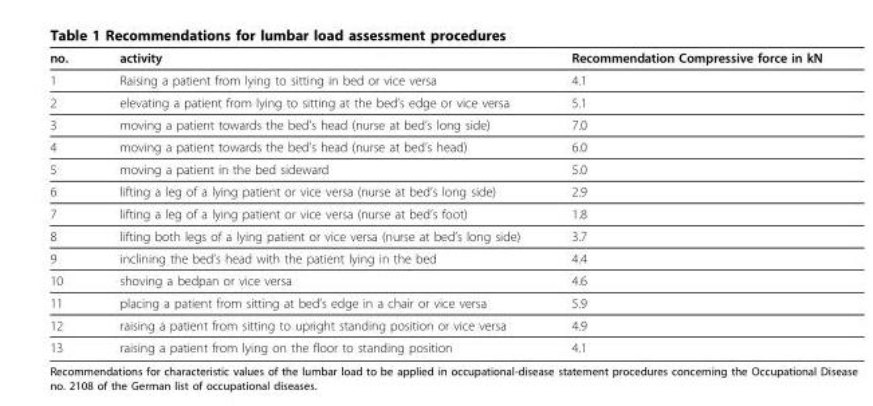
<table><thead><tr><td>no.</td><td>activity</td><td>Recommendation Compressive force in kN</td></tr></thead><tbody><tr><td>1</td><td>Raising a patient from lying to sitting in bed or vice versa</td><td>4.1</td></tr><tr><td>2</td><td>elevating a patient from lying to sitting at the bed’s edge or vice versa</td><td>5.1</td></tr><tr><td>3</td><td>moving a patient towards the bed’s head (nurse at bed’s long side)</td><td>7.0</td></tr><tr><td>4</td><td>moving a patient towards the bed’s head (nurse at bed’s head)</td><td>6.0</td></tr><tr><td>5</td><td>moving a patient in the bed sideward</td><td>5.0</td></tr><tr><td>6</td><td>lifting a leg of a lying patient or vice versa (nurse at bed’s long side)</td><td>2.9</td></tr><tr><td>7</td><td>lifting a leg of a lying patient or vice versa (nurse at bed’s foot)</td><td>1.8</td></tr><tr><td>8</td><td>lifting both legs of a lying patient or vice versa (nurse at bed’s long side)</td><td>3.7</td></tr><tr><td>9</td><td>inclining the bed’s head with the patient lying in the bed</td><td>4.4</td></tr><tr><td>10</td><td>shoving a bedpan or vice versa</td><td>4.6</td></tr><tr><td>11</td><td>placing a patient from sitting at bed’s edge in a chair or vice versa</td><td>5.9</td></tr><tr><td>12</td><td>raising a patient from sitting to upright standing position or vice versa</td><td>4.9</td></tr><tr><td>13</td><td>raising a patient from lying on the floor to standing position</td><td>4.1</td></tr></tbody></table>